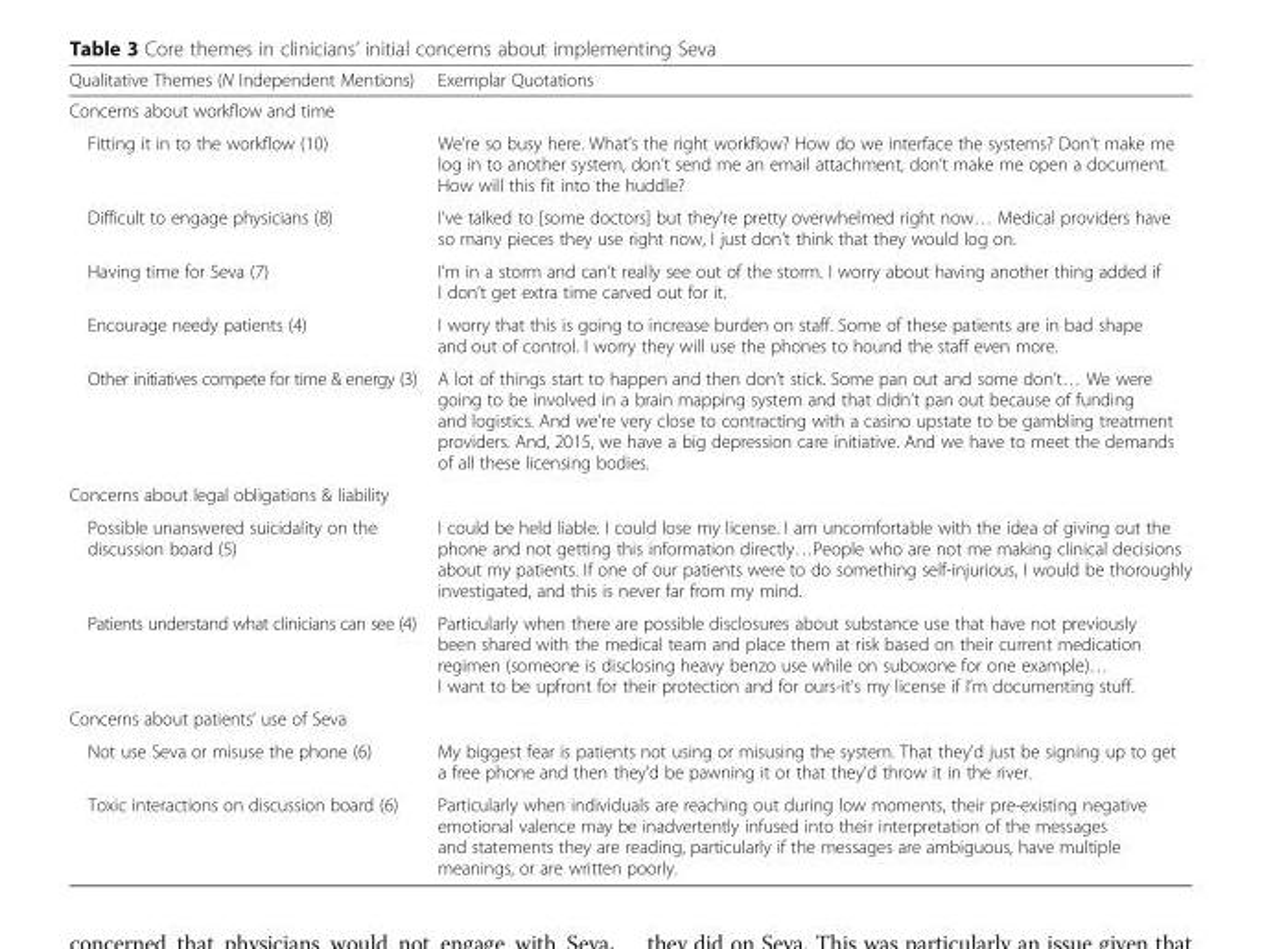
<table><thead><tr><td>Qualitative Themes (N Independent Mentions)</td><td>Exemplar Quotations</td></tr></thead><tbody><tr><td colspan="2">Concerns about workflow and time</td></tr><tr><td>Fitting it in to the workflow (10)</td><td>We’re so busy here. What’s the right workflow? How do we interface the systems? Don’t make me log in to another system, don’t send me an email attachment, don’t make me open a document. How will this fit into the huddle?</td></tr><tr><td>Difficult to engage physicians (8)</td><td>I’ve talked to [some doctors] but they’re pretty overwhelmed right now… Medical providers have so many pieces they use right now, I just don’t think that they would log on.</td></tr><tr><td>Having time for Seva (7)</td><td>I’m in a storm and can’t really see out of the storm. I worry about having another thing added if I don’t get extra time carved out for it.</td></tr><tr><td>Encourage needy patients (4)</td><td>I worry that this is going to increase burden on staff. Some of these patients are in bad shape and out of control. I worry they will use the phones to hound the staff even more.</td></tr><tr><td>Other initiatives compete for time &amp; energy (3)</td><td>A lot of things start to happen and then don’t stick. Some pan out and some don’t… We were going to be involved in a brain mapping system and that didn’t pan out because of funding and logistics. And we’re very close to contracting with a casino upstate to be gambling treatment providers. And, 2015, we have a big depression care initiative. And we have to meet the demands of all these licensing bodies.</td></tr><tr><td colspan="2">Concerns about legal obligations &amp; liability</td></tr><tr><td>Possible unanswered suicidality on the discussion board (5)</td><td>I could be held liable. I could lose my license. I am uncomfortable with the idea of giving out the phone and not getting this information directly…People who are not me making clinical decisions about my patients. If one of our patients were to do something self-injurious, I would be thoroughly investigated, and this is never far from my mind.</td></tr><tr><td>Patients understand what clinicians can see (4)</td><td>Particularly when there are possible disclosures about substance use that have not previously been shared with the medical team and place them at risk based on their current medication regimen (someone is disclosing heavy benzo use while on suboxone for one example)… I want to be upfront for their protection and for ours-it’s my license if I’m documenting stuff.</td></tr><tr><td colspan="2">Concerns about patients’ use of Seva</td></tr><tr><td>Not use Seva or misuse the phone (6)</td><td>My biggest fear is patients not using or misusing the system. That they’d just be signing up to get a free phone and then they’d be pawning it or that they’d throw it in the river.</td></tr><tr><td>Toxic interactions on discussion board (6)</td><td>Particularly when individuals are reaching out during low moments, their pre-existing negative emotional valence may be inadvertently infused into their interpretation of the messages and statements they are reading, particularly if the messages are ambiguous, have multiple meanings, or are written poorly.</td></tr></tbody></table>